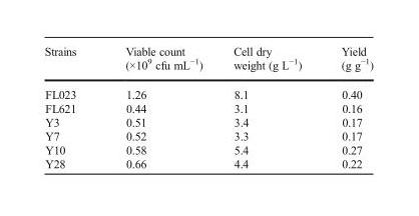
<table><thead><tr><td>Strains</td><td>Viable count (×10<sup>9</sup> cfu mL<sup>−1</sup>)</td><td>Cell dry weight (g L<sup>−1</sup>)</td><td>Yield (g g<sup>−1</sup>)</td></tr></thead><tbody><tr><td>FL023</td><td>1.26</td><td>8.1</td><td>0.40</td></tr><tr><td>FL621</td><td>0.44</td><td>3.1</td><td>0.16</td></tr><tr><td>Y3</td><td>0.51</td><td>3.4</td><td>0.17</td></tr><tr><td>Y7</td><td>0.52</td><td>3.3</td><td>0.17</td></tr><tr><td>Y10</td><td>0.58</td><td>5.4</td><td>0.27</td></tr><tr><td>Y28</td><td>0.66</td><td>4.4</td><td>0.22</td></tr></tbody></table>